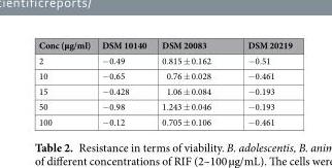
<table><thead><tr><td>Conc (µg/ml)</td><td>DSM 10140</td><td>DSM 20083</td><td>DSM 20219</td></tr></thead><tbody><tr><td>2</td><td>−0.49</td><td>0.815 ± 0.162</td><td>−0.51</td></tr><tr><td>10</td><td>−0.65</td><td>0.76 ± 0.028</td><td>−0.461</td></tr><tr><td>15</td><td>−0.428</td><td>1.06 ± 0.084</td><td>−0.193</td></tr><tr><td>50</td><td>−0.98</td><td>1.243 ± 0.046</td><td>−0.193</td></tr><tr><td>100</td><td>−0.12</td><td>0.705 ± 0.106</td><td>−0.461</td></tr></tbody></table>